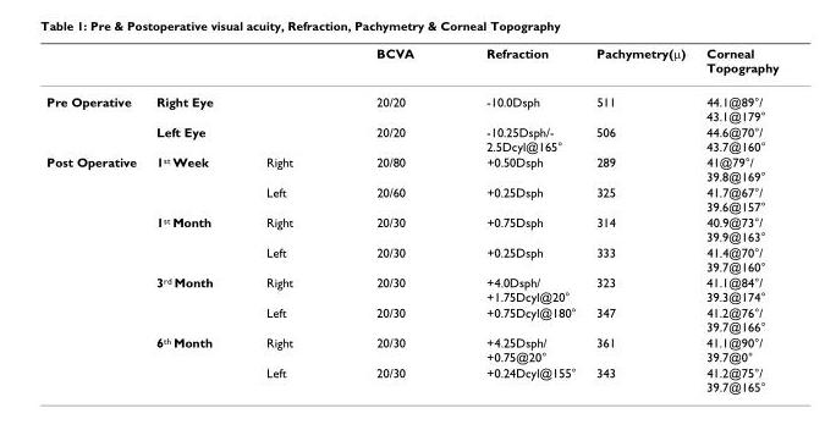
<table><thead><tr><td></td><td></td><td></td><td>BCVA</td><td>Refraction</td><td>Pachymetry(µ)</td><td>Corneal Topography</td></tr></thead><tbody><tr><td rowspan="2">Pre Operative</td><td>Right Eye</td><td></td><td>20/20</td><td>-10.0Dsph</td><td>511</td><td>44.1@89°/ 43.1@179°</td></tr><tr><td>Left Eye</td><td></td><td>20/20</td><td>-10.25Dsph/- 2.5Dcyl@165°</td><td>506</td><td>44.6@70°/ 43.7@160°</td></tr><tr><td rowspan="8">Post Operative</td><td>1<sup>st</sup> Week</td><td>Right</td><td>20/80</td><td>+0.50Dsph</td><td>289</td><td>41@79°/ 39.8@169°</td></tr><tr><td></td><td>Left</td><td>20/60</td><td>+0.25Dsph</td><td>325</td><td>41.7@67°/ 39.6@157°</td></tr><tr><td>1<sup>st</sup> Month</td><td>Right</td><td>20/30</td><td>+0.75Dsph</td><td>314</td><td>40.9@73°/ 39.9@163°</td></tr><tr><td></td><td>Left</td><td>20/30</td><td>+0.25Dsph</td><td>333</td><td>41.4@70°/ 39.7@160°</td></tr><tr><td>3<sup>rd</sup> Month</td><td>Right</td><td>20/30</td><td>+4.0Dsph/ +1.75Dcyl@20°</td><td>323</td><td>41.1@84°/ 39.3@174°</td></tr><tr><td></td><td>Left</td><td>20/30</td><td>+0.75Dcyl@180°</td><td>347</td><td>41.2@76°/ 39.7@166°</td></tr><tr><td>6<sup>th</sup> Month</td><td>Right</td><td>20/30</td><td>+4.25Dsph/ +0.75@20°</td><td>361</td><td>41.1@90°/ 39.7@0°</td></tr><tr><td></td><td>Left</td><td>20/30</td><td>+0.24Dcyl@155°</td><td>343</td><td>41.2@75°/ 39.7@165°</td></tr></tbody></table>